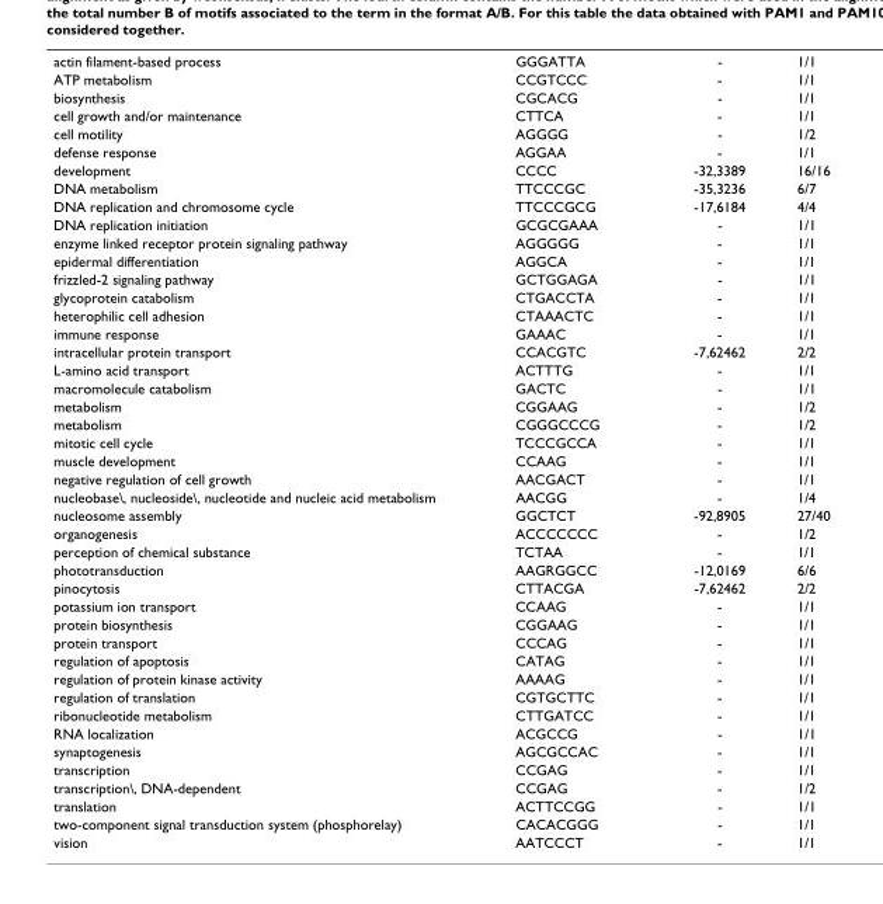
<table><tbody><tr><td>actin filament-based process</td><td>GGGATTA</td><td>-</td><td>1/1</td></tr><tr><td>ATP metabolism</td><td>CCGTCCC</td><td>-</td><td>1/1</td></tr><tr><td>biosynthesis</td><td>CGCACG</td><td>-</td><td>1/1</td></tr><tr><td>cell growth and/or maintenance</td><td>CTTCA</td><td>-</td><td>1/1</td></tr><tr><td>cell motility</td><td>AGGGG</td><td>-</td><td>1/2</td></tr><tr><td>defense response</td><td>AGGAA</td><td>-</td><td>1/1</td></tr><tr><td>development</td><td>CCCC</td><td>-32,3389</td><td>16/16</td></tr><tr><td>DNA metabolism</td><td>TTCCCGC</td><td>-35,3236</td><td>6/7</td></tr><tr><td>DNA replication and chromosome cycle</td><td>TTCCCGCG</td><td>-17,6184</td><td>4/4</td></tr><tr><td>DNA replication initiation</td><td>GCGCGAAA</td><td>-</td><td>1/1</td></tr><tr><td>enzyme linked receptor protein signaling pathway</td><td>AGGGGG</td><td>-</td><td>1/1</td></tr><tr><td>epidermal differentiation</td><td>AGGCA</td><td>-</td><td>1/1</td></tr><tr><td>frizzled-2 signaling pathway</td><td>GCTGGAGA</td><td>-</td><td>1/1</td></tr><tr><td>glycoprotein catabolism</td><td>CTGACCTA</td><td>-</td><td>1/1</td></tr><tr><td>heterophilic cell adhesion</td><td>CTAAACTC</td><td>-</td><td>1/1</td></tr><tr><td>immune response</td><td>GAAAC</td><td>-</td><td>1/1</td></tr><tr><td>intracellular protein transport</td><td>CCACGTC</td><td>-7,62462</td><td>2/2</td></tr><tr><td>L-amino acid transport</td><td>ACTTTG</td><td>-</td><td>1/1</td></tr><tr><td>macromolecule catabolism</td><td>GACTC</td><td>-</td><td>1/1</td></tr><tr><td>metabolism</td><td>CGGAAG</td><td>-</td><td>1/2</td></tr><tr><td>metabolism</td><td>CGGGCCCG</td><td>-</td><td>1/2</td></tr><tr><td>mitotic cell cycle</td><td>TCCCGCCA</td><td>-</td><td>1/1</td></tr><tr><td>muscle development</td><td>CCAAG</td><td>-</td><td>1/1</td></tr><tr><td>negative regulation of cell growth</td><td>AACGACT</td><td>-</td><td>1/1</td></tr><tr><td>nucleobase\, nucleoside\, nucleotide and nucleic acid metabolism</td><td>AACGG</td><td>-</td><td>1/4</td></tr><tr><td>nucleosome assembly</td><td>GGCTCT</td><td>-92,8905</td><td>27/40</td></tr><tr><td>organogenesis</td><td>ACCCCCCC</td><td>-</td><td>1/2</td></tr><tr><td>perception of chemical substance</td><td>TCTAA</td><td>-</td><td>1/1</td></tr><tr><td>phototransduction</td><td>AAGRGGCC</td><td>-12,0169</td><td>6/6</td></tr><tr><td>pinocytosis</td><td>CTTACGA</td><td>-7,62462</td><td>2/2</td></tr><tr><td>potassium ion transport</td><td>CCAAG</td><td>-</td><td>1/1</td></tr><tr><td>protein biosynthesis</td><td>CGGAAG</td><td>-</td><td>1/1</td></tr><tr><td>protein transport</td><td>CCCAG</td><td>-</td><td>1/1</td></tr><tr><td>regulation of apoptosis</td><td>CATAG</td><td>-</td><td>1/1</td></tr><tr><td>regulation of protein kinase activity</td><td>AAAAG</td><td>-</td><td>1/1</td></tr><tr><td>regulation of translation</td><td>CGTGCTTC</td><td>-</td><td>1/1</td></tr><tr><td>ribonucleotide metabolism</td><td>CTTGATCC</td><td>-</td><td>1/1</td></tr><tr><td>RNA localization</td><td>ACGCCG</td><td>-</td><td>1/1</td></tr><tr><td>synaptogenesis</td><td>AGCGCCAC</td><td>-</td><td>1/1</td></tr><tr><td>transcription</td><td>CCGAG</td><td>-</td><td>1/1</td></tr><tr><td>transcription\, DNA-dependent</td><td>CCGAG</td><td>-</td><td>1/2</td></tr><tr><td>translation</td><td>ACTTCCGG</td><td>-</td><td>1/1</td></tr><tr><td>two-component signal transduction system (phosphorelay)</td><td>CACACGGG</td><td>-</td><td>1/1</td></tr><tr><td>vision</td><td>AATCCCT</td><td>-</td><td>1/1</td></tr></tbody></table>